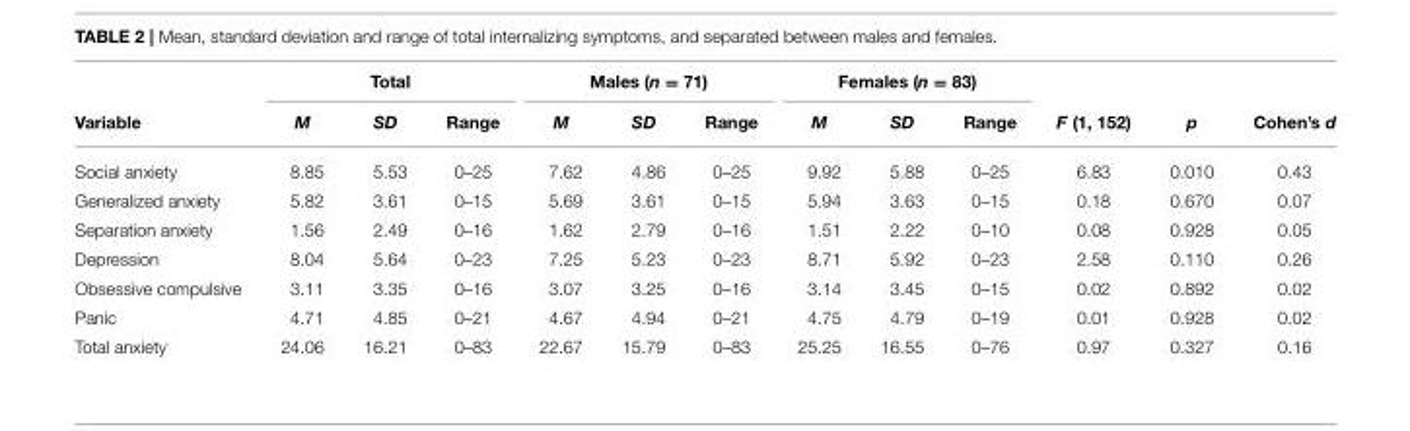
<table><thead><tr><td rowspan="2">Variable</td><td colspan="3">Total</td><td colspan="3">Males (n = 71)</td><td colspan="3">Females (n = 83)</td><td rowspan="2">F (1, 152)</td><td rowspan="2">p</td><td rowspan="2">Cohen’s d</td></tr><tr><td>M</td><td>SD</td><td>Range</td><td>M</td><td>SD</td><td>Range</td><td>M</td><td>SD</td><td>Range</td></tr></thead><tbody><tr><td>Social anxiety</td><td>8.85</td><td>5.53</td><td>0–25</td><td>7.62</td><td>4.86</td><td>0–25</td><td>9.92</td><td>5.88</td><td>0–25</td><td>6.83</td><td>0.010</td><td>0.43</td></tr><tr><td>Generalized anxiety</td><td>5.82</td><td>3.61</td><td>0–15</td><td>5.69</td><td>3.61</td><td>0–15</td><td>5.94</td><td>3.63</td><td>0–15</td><td>0.18</td><td>0.670</td><td>0.07</td></tr><tr><td>Separation anxiety</td><td>1.56</td><td>2.49</td><td>0–16</td><td>1.62</td><td>2.79</td><td>0–16</td><td>1.51</td><td>2.22</td><td>0–10</td><td>0.08</td><td>0.928</td><td>0.05</td></tr><tr><td>Depression</td><td>8.04</td><td>5.64</td><td>0–23</td><td>7.25</td><td>5.23</td><td>0–23</td><td>8.71</td><td>5.92</td><td>0–23</td><td>2.58</td><td>0.110</td><td>0.26</td></tr><tr><td>Obsessive compulsive</td><td>3.11</td><td>3.35</td><td>0–16</td><td>3.07</td><td>3.25</td><td>0–16</td><td>3.14</td><td>3.45</td><td>0–15</td><td>0.02</td><td>0.892</td><td>0.02</td></tr><tr><td>Panic</td><td>4.71</td><td>4.85</td><td>0–21</td><td>4.67</td><td>4.94</td><td>0–21</td><td>4.75</td><td>4.79</td><td>0–19</td><td>0.01</td><td>0.928</td><td>0.02</td></tr><tr><td>Total anxiety</td><td>24.06</td><td>16.21</td><td>0–83</td><td>22.67</td><td>15.79</td><td>0–83</td><td>25.25</td><td>16.55</td><td>0–76</td><td>0.97</td><td>0.327</td><td>0.16</td></tr></tbody></table>